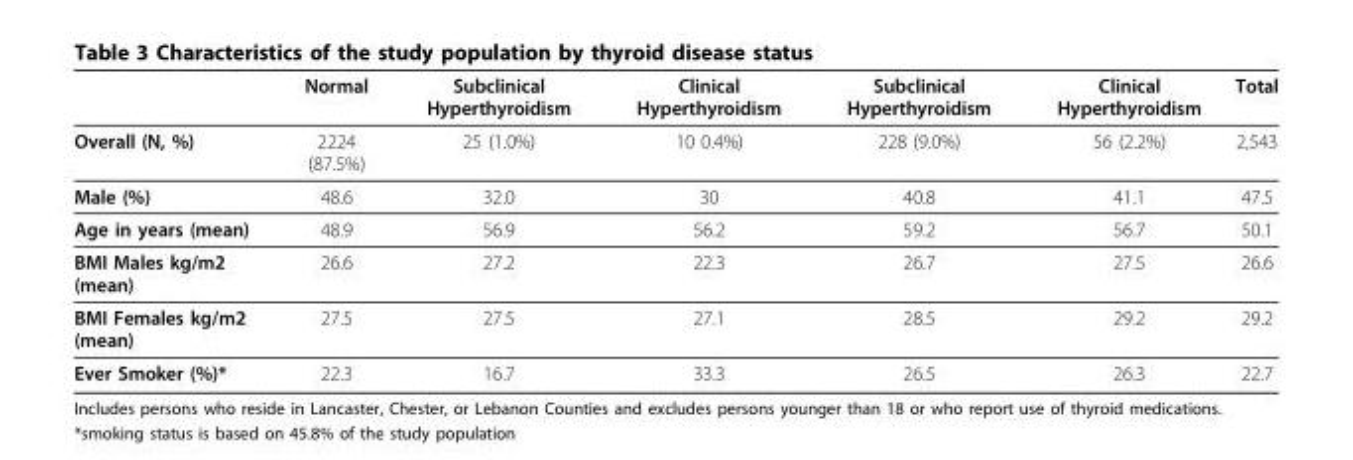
<table><thead><tr><td></td><td>Normal</td><td>Subclinical Hyperthyroidism</td><td>Clinical Hyperthyroidism</td><td>Subclinical Hyperthyroidism</td><td>Clinical Hyperthyroidism</td><td>Total</td></tr></thead><tbody><tr><td>Overall (N, %)</td><td>2224 (87.5%)</td><td>25 (1.0%)</td><td>10 0.4%)</td><td>228 (9.0%)</td><td>56 (2.2%)</td><td>2,543</td></tr><tr><td>Male (%)</td><td>48.6</td><td>32.0</td><td>30</td><td>40.8</td><td>41.1</td><td>47.5</td></tr><tr><td>Age in years (mean)</td><td>48.9</td><td>56.9</td><td>56.2</td><td>59.2</td><td>56.7</td><td>50.1</td></tr><tr><td>BMI Males kg/m2 (mean)</td><td>26.6</td><td>27.2</td><td>22.3</td><td>26.7</td><td>27.5</td><td>26.6</td></tr><tr><td>BMI Females kg/m2 (mean)</td><td>27.5</td><td>27.5</td><td>27.1</td><td>28.5</td><td>29.2</td><td>29.2</td></tr><tr><td>Ever Smoker (%)*</td><td>22.3</td><td>16.7</td><td>33.3</td><td>26.5</td><td>26.3</td><td>22.7</td></tr></tbody></table>